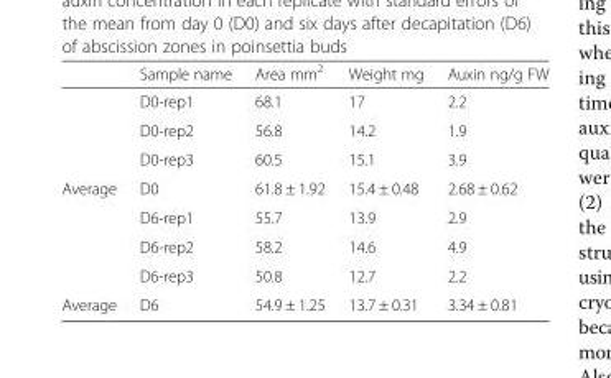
<table><thead><tr><td></td><td>Sample name</td><td>Area mm<sup>2</sup></td><td>Weight mg</td><td>Auxin ng/g FW</td></tr></thead><tbody><tr><td></td><td>D0-rep1</td><td>68.1</td><td>17</td><td>2.2</td></tr><tr><td></td><td>D0-rep2</td><td>56.8</td><td>14.2</td><td>1.9</td></tr><tr><td></td><td>D0-rep3</td><td>60.5</td><td>15.1</td><td>3.9</td></tr><tr><td rowspan="4">Average</td><td>D0</td><td>61.8 ± 1.92</td><td>15.4 ± 0.48</td><td>2.68 ± 0.62</td></tr><tr><td>D6-rep1</td><td>55.7</td><td>13.9</td><td>2.9</td></tr><tr><td>D6-rep2</td><td>58.2</td><td>14.6</td><td>4.9</td></tr><tr><td>D6-rep3</td><td>50.8</td><td>12.7</td><td>2.2</td></tr><tr><td>Average</td><td>D6</td><td>54.9 ± 1.25</td><td>13.7 ± 0.31</td><td>3.34 ± 0.81</td></tr></tbody></table>